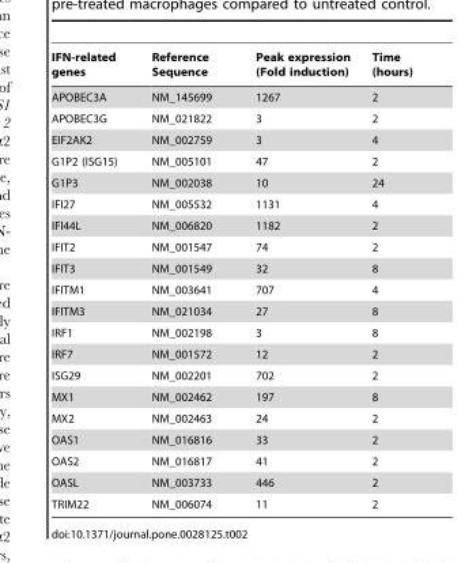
<table><thead><tr><td>IFN-related genes</td><td>Reference Sequence</td><td>Peak expression (Fold induction)</td><td>Time (hours)</td></tr></thead><tbody><tr><td>APOBEC3A</td><td>NM_145699</td><td>1267</td><td>2</td></tr><tr><td>APOBEC3G</td><td>NM_021822</td><td>3</td><td>2</td></tr><tr><td>EIF2AK2</td><td>NM_002759</td><td>3</td><td>4</td></tr><tr><td>G1P2 (ISG15)</td><td>NM_005101</td><td>47</td><td>2</td></tr><tr><td>G1P3</td><td>NM_002038</td><td>10</td><td>24</td></tr><tr><td>IFI27</td><td>NM_005532</td><td>1131</td><td>4</td></tr><tr><td>IFI44L</td><td>NM_006820</td><td>1182</td><td>2</td></tr><tr><td>IFIT2</td><td>NM_001547</td><td>74</td><td>2</td></tr><tr><td>IFIT3</td><td>NM_001549</td><td>32</td><td>8</td></tr><tr><td>IFITM1</td><td>NM_003641</td><td>707</td><td>4</td></tr><tr><td>IFITM3</td><td>NM_021034</td><td>27</td><td>8</td></tr><tr><td>IRF1</td><td>NM_002198</td><td>3</td><td>8</td></tr><tr><td>IRF7</td><td>NM_001572</td><td>12</td><td>2</td></tr><tr><td>ISG29</td><td>NM_002201</td><td>702</td><td>2</td></tr><tr><td>MX1</td><td>NM_002462</td><td>197</td><td>8</td></tr><tr><td>MX2</td><td>NM_002463</td><td>24</td><td>2</td></tr><tr><td>OAS1</td><td>NM_016816</td><td>33</td><td>2</td></tr><tr><td>OAS2</td><td>NM_016817</td><td>41</td><td>2</td></tr><tr><td>OASL</td><td>NM_003733</td><td>446</td><td>2</td></tr><tr><td>TRIM22</td><td>NM_006074</td><td>11</td><td>2</td></tr></tbody></table>